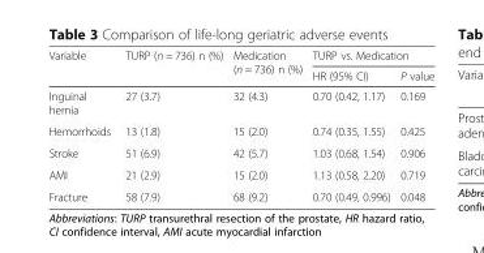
<table><thead><tr><td rowspan="2">Variable</td><td rowspan="2">TURP (n = 736) n (%)</td><td rowspan="2">Medication (n = 736) n (%)</td><td colspan="2">TURP vs. Medication</td></tr><tr><td>HR (95% CI)</td><td>P value</td></tr></thead><tbody><tr><td>Inguinal hernia</td><td>27 (3.7)</td><td>32 (4.3)</td><td>0.70 (0.42, 1.17)</td><td>0.169</td></tr><tr><td>Hemorrhoids</td><td>13 (1.8)</td><td>15 (2.0)</td><td>0.74 (0.35, 1.55)</td><td>0.425</td></tr><tr><td>Stroke</td><td>51 (6.9)</td><td>42 (5.7)</td><td>1.03 (0.68, 1.54)</td><td>0.906</td></tr><tr><td>AMI</td><td>21 (2.9)</td><td>15 (2.0)</td><td>1.13 (0.58, 2.20)</td><td>0.719</td></tr><tr><td>Fracture</td><td>58 (7.9)</td><td>68 (9.2)</td><td>0.70 (0.49, 0.996)</td><td>0.048</td></tr></tbody></table>